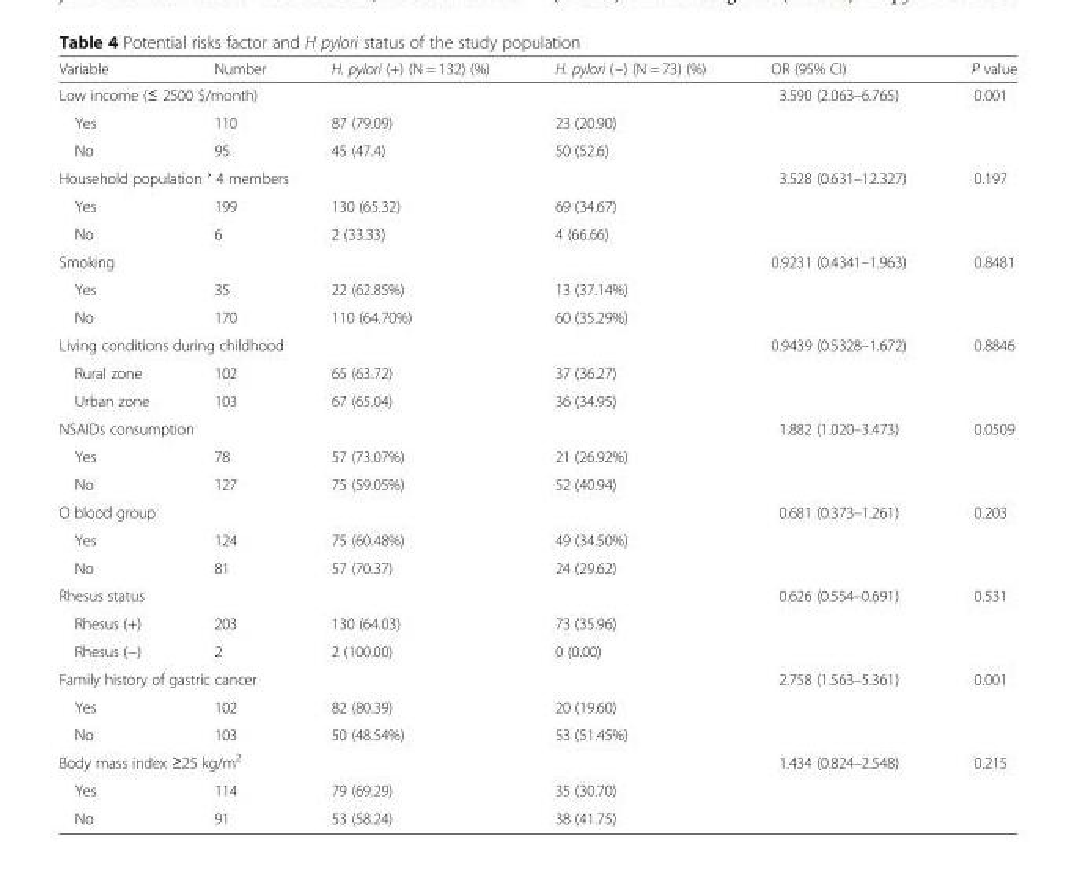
<table><thead><tr><td>Variable</td><td>Number</td><td>H. pylori (+) (N = 132) (%)</td><td>H. pylori (−) (N = 73) (%)</td><td>OR (95% CI)</td><td>P value</td></tr></thead><tbody><tr><td colspan="4">Low income (≤ 2500 $/month)</td><td rowspan="3">3.590 (2.063–6.765)</td><td rowspan="3">0.001</td></tr><tr><td>Yes</td><td>110</td><td>87 (79.09)</td><td>23 (20.90)</td></tr><tr><td>No</td><td>95</td><td>45 (47.4)</td><td>50 (52.6)</td></tr><tr><td colspan="4">Household population ˃ 4 members</td><td rowspan="3">3.528 (0.631–12.327)</td><td rowspan="3">0.197</td></tr><tr><td>Yes</td><td>199</td><td>130 (65.32)</td><td>69 (34.67)</td></tr><tr><td>No</td><td>6</td><td>2 (33.33)</td><td>4 (66.66)</td></tr><tr><td colspan="4">Smoking</td><td rowspan="3">0.9231 (0.4341–1.963)</td><td rowspan="3">0.8481</td></tr><tr><td>Yes</td><td>35</td><td>22 (62.85%)</td><td>13 (37.14%)</td></tr><tr><td>No</td><td>170</td><td>110 (64.70%)</td><td>60 (35.29%)</td></tr><tr><td colspan="4">Living conditions during childhood</td><td rowspan="3">0.9439 (0.5328–1.672)</td><td rowspan="3">0.8846</td></tr><tr><td>Rural zone</td><td>102</td><td>65 (63.72)</td><td>37 (36.27)</td></tr><tr><td>Urban zone</td><td>103</td><td>67 (65.04)</td><td>36 (34.95)</td></tr><tr><td colspan="4">NSAIDs consumption</td><td rowspan="3">1.882 (1.020–3.473)</td><td rowspan="3">0.0509</td></tr><tr><td>Yes</td><td>78</td><td>57 (73.07%)</td><td>21 (26.92%)</td></tr><tr><td>No</td><td>127</td><td>75 (59.05%)</td><td>52 (40.94)</td></tr><tr><td colspan="4">O blood group</td><td rowspan="3">0.681 (0.373–1.261)</td><td rowspan="3">0.203</td></tr><tr><td>Yes</td><td>124</td><td>75 (60.48%)</td><td>49 (34.50%)</td></tr><tr><td>No</td><td>81</td><td>57 (70.37)</td><td>24 (29.62)</td></tr><tr><td colspan="4">Rhesus status</td><td rowspan="3">0.626 (0.554–0.691)</td><td rowspan="3">0.531</td></tr><tr><td>Rhesus (+)</td><td>203</td><td>130 (64.03)</td><td>73 (35.96)</td></tr><tr><td>Rhesus (−)</td><td>2</td><td>2 (100.00)</td><td>0 (0.00)</td></tr><tr><td colspan="4">Family history of gastric cancer</td><td rowspan="3">2.758 (1.563–5.361)</td><td rowspan="3">0.001</td></tr><tr><td>Yes</td><td>102</td><td>82 (80.39)</td><td>20 (19.60)</td></tr><tr><td>No</td><td>103</td><td>50 (48.54%)</td><td>53 (51.45%)</td></tr><tr><td colspan="4">Body mass index ≥25 kg/m<sup>2</sup></td><td rowspan="3">1.434 (0.824–2.548)</td><td rowspan="3">0.215</td></tr><tr><td>Yes</td><td>114</td><td>79 (69.29)</td><td>35 (30.70)</td></tr><tr><td>No</td><td>91</td><td>53 (58.24)</td><td>38 (41.75)</td></tr></tbody></table>